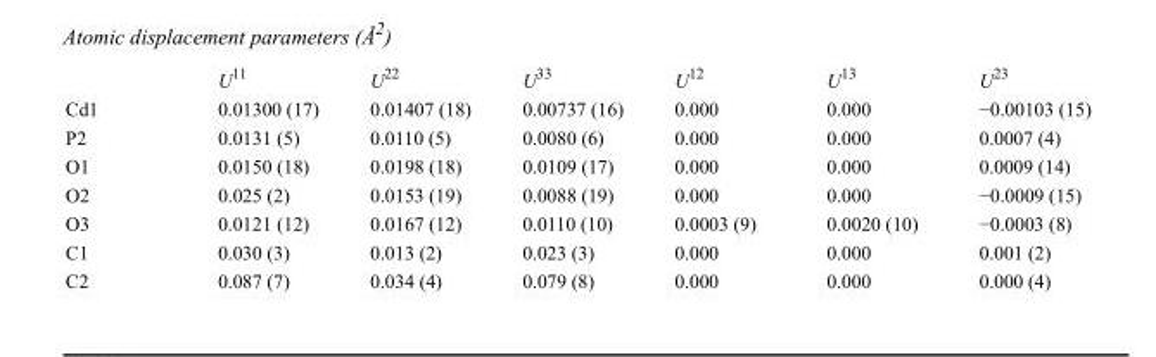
<table><thead><tr><td></td><td>U<sup>11</sup></td><td>U<sup>22</sup></td><td>U<sup>33</sup></td><td>U<sup>12</sup></td><td>U<sup>13</sup></td><td>U<sup>23</sup></td></tr></thead><tbody><tr><td>Cd1</td><td>0.01300 (17)</td><td>0.01407 (18)</td><td>0.00737 (16)</td><td>0.000</td><td>0.000</td><td>−0.00103 (15)</td></tr><tr><td>P2</td><td>0.0131 (5)</td><td>0.0110 (5)</td><td>0.0080 (6)</td><td>0.000</td><td>0.000</td><td>0.0007 (4)</td></tr><tr><td>O1</td><td>0.0150 (18)</td><td>0.0198 (18)</td><td>0.0109 (17)</td><td>0.000</td><td>0.000</td><td>0.0009 (14)</td></tr><tr><td>O2</td><td>0.025 (2)</td><td>0.0153 (19)</td><td>0.0088 (19)</td><td>0.000</td><td>0.000</td><td>−0.0009 (15)</td></tr><tr><td>O3</td><td>0.0121 (12)</td><td>0.0167 (12)</td><td>0.0110 (10)</td><td>0.0003 (9)</td><td>0.0020 (10)</td><td>−0.0003 (8)</td></tr><tr><td>C1</td><td>0.030 (3)</td><td>0.013 (2)</td><td>0.023 (3)</td><td>0.000</td><td>0.000</td><td>0.001 (2)</td></tr><tr><td>C2</td><td>0.087 (7)</td><td>0.034 (4)</td><td>0.079 (8)</td><td>0.000</td><td>0.000</td><td>0.000 (4)</td></tr></tbody></table>